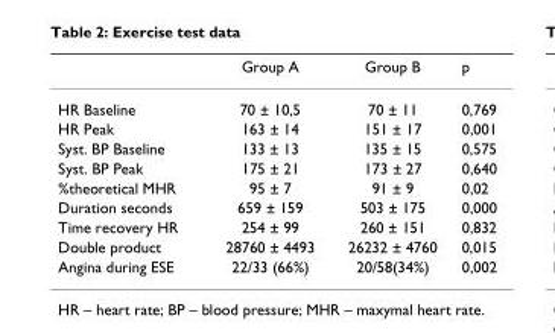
<table><thead><tr><td></td><td>Group A</td><td>Group B</td><td>p</td></tr></thead><tbody><tr><td>HR Baseline</td><td>70 ± 10,5</td><td>70 ± 11</td><td>0,769</td></tr><tr><td>HR Peak</td><td>163 ± 14</td><td>151 ± 17</td><td>0,001</td></tr><tr><td>Syst. BP Baseline</td><td>133 ± 13</td><td>135 ± 15</td><td>0,575</td></tr><tr><td>Syst. BP Peak</td><td>175 ± 21</td><td>173 ± 27</td><td>0,640</td></tr><tr><td>%theoretical MHR</td><td>95 ± 7</td><td>91 ± 9</td><td>0,02</td></tr><tr><td>Duration seconds</td><td>659 ± 159</td><td>503 ± 175</td><td>0,000</td></tr><tr><td>Time recovery HR</td><td>254 ± 99</td><td>260 ± 151</td><td>0,832</td></tr><tr><td>Double product</td><td>28760 ± 4493</td><td>26232 ± 4760</td><td>0,015</td></tr><tr><td>Angina during ESE</td><td>22/33 (66%)</td><td>20/58(34%)</td><td>0,002</td></tr></tbody></table>